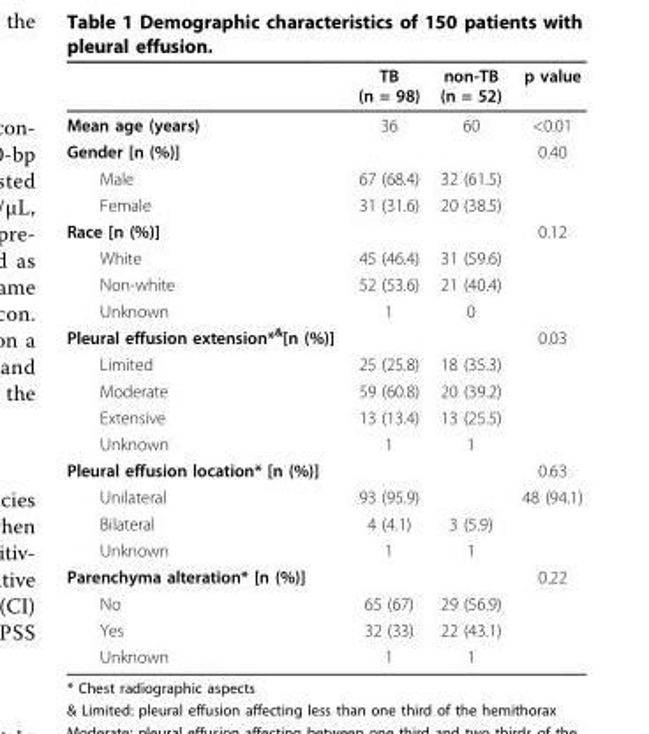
<table><thead><tr><td></td><td>TB (n = 98)</td><td>non-TB (n = 52)</td><td>p value</td></tr></thead><tbody><tr><td>Mean age (years)</td><td>36</td><td>60</td><td>&lt;0.01</td></tr><tr><td>Gender [n (%)]</td><td></td><td></td><td>0.40</td></tr><tr><td>Male</td><td>67 (68.4)</td><td>32 (61.5)</td><td></td></tr><tr><td>Female</td><td>31 (31.6)</td><td>20 (38.5)</td><td></td></tr><tr><td>Race [n (%)]</td><td></td><td></td><td>0.12</td></tr><tr><td>White</td><td>45 (46.4)</td><td>31 (59.6)</td><td></td></tr><tr><td>Non-white</td><td>52 (53.6)</td><td>21 (40.4)</td><td></td></tr><tr><td>Unknown</td><td>1</td><td>0</td><td></td></tr><tr><td>Pleural effusion extension*<sup>&amp;</sup>[n (%)]</td><td></td><td></td><td>0.03</td></tr><tr><td>Limited</td><td>25 (25.8)</td><td>18 (35.3)</td><td></td></tr><tr><td>Moderate</td><td>59 (60.8)</td><td>20 (39.2)</td><td></td></tr><tr><td>Extensive</td><td>13 (13.4)</td><td>13 (25.5)</td><td></td></tr><tr><td>Unknown</td><td>1</td><td>1</td><td></td></tr><tr><td>Pleural effusion location* [n (%)]</td><td></td><td></td><td>0.63</td></tr><tr><td>Unilateral</td><td>93 (95.9)</td><td></td><td>48 (94.1)</td></tr><tr><td>Bilateral</td><td>4 (4.1)</td><td>3 (5.9)</td><td></td></tr><tr><td>Unknown</td><td>1</td><td>1</td><td></td></tr><tr><td>Parenchyma alteration* [n (%)]</td><td></td><td></td><td>0.22</td></tr><tr><td>No</td><td>65 (67)</td><td>29 (56.9)</td><td></td></tr><tr><td>Yes</td><td>32 (33)</td><td>22 (43.1)</td><td></td></tr><tr><td>Unknown</td><td>1</td><td>1</td><td></td></tr></tbody></table>